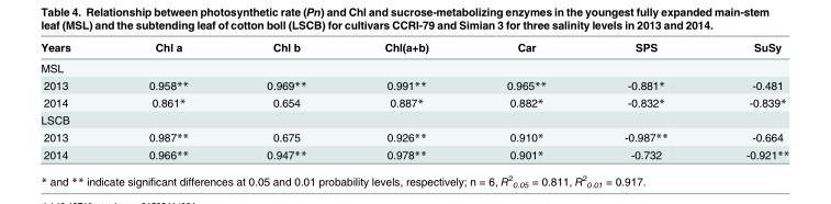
<table><thead><tr><td>Years</td><td>Chl a</td><td>Chl b</td><td>Chl(a+b)</td><td>Car</td><td>SPS</td><td>SuSy</td></tr></thead><tbody><tr><td colspan="7">MSL</td></tr><tr><td>2013</td><td>0.958**</td><td>0.969**</td><td>0.991**</td><td>0.965**</td><td>-0.881*</td><td>-0.481</td></tr><tr><td>2014</td><td>0.861*</td><td>0.654</td><td>0.887*</td><td>0.882*</td><td>-0.832*</td><td>-0.839*</td></tr><tr><td colspan="7">LSCB</td></tr><tr><td>2013</td><td>0.987**</td><td>0.675</td><td>0.926**</td><td>0.910*</td><td>-0.987**</td><td>-0.664</td></tr><tr><td>2014</td><td>0.966**</td><td>0.947**</td><td>0.978**</td><td>0.901*</td><td>-0.732</td><td>-0.921**</td></tr></tbody></table>